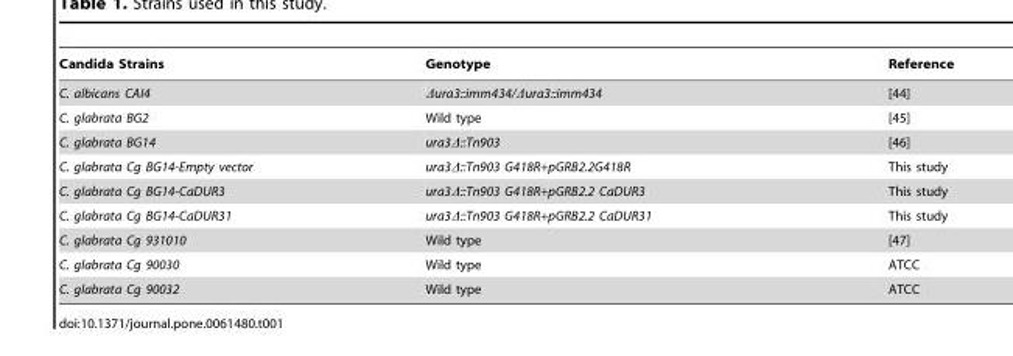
<table><thead><tr><td>Candida Strains</td><td>Genotype</td><td>Reference</td></tr></thead><tbody><tr><td>C. albicans CAI4</td><td>Δura3::imm434/Δura3::imm434</td><td>[44]</td></tr><tr><td>C. glabrata BG2</td><td>Wild type</td><td>[45]</td></tr><tr><td>C. glabrata BG14</td><td>ura3Δ::Tn903</td><td>[46]</td></tr><tr><td>C. glabrata Cg BG14-Empty vector</td><td>ura3Δ::Tn903 G418R+pGRB2.2G418R</td><td>This study</td></tr><tr><td>C. glabrata Cg BG14-CaDUR3</td><td>ura3Δ::Tn903 G418R+pGRB2.2 CaDUR3</td><td>This study</td></tr><tr><td>C. glabrata Cg BG14-CaDUR31</td><td>ura3Δ::Tn903 G418R+pGRB2.2 CaDUR31</td><td>This study</td></tr><tr><td>C. glabrata Cg 931010</td><td>Wild type</td><td>[47]</td></tr><tr><td>C. glabrata Cg 90030</td><td>Wild type</td><td>ATCC</td></tr><tr><td>C. glabrata Cg 90032</td><td>Wild type</td><td>ATCC</td></tr></tbody></table>